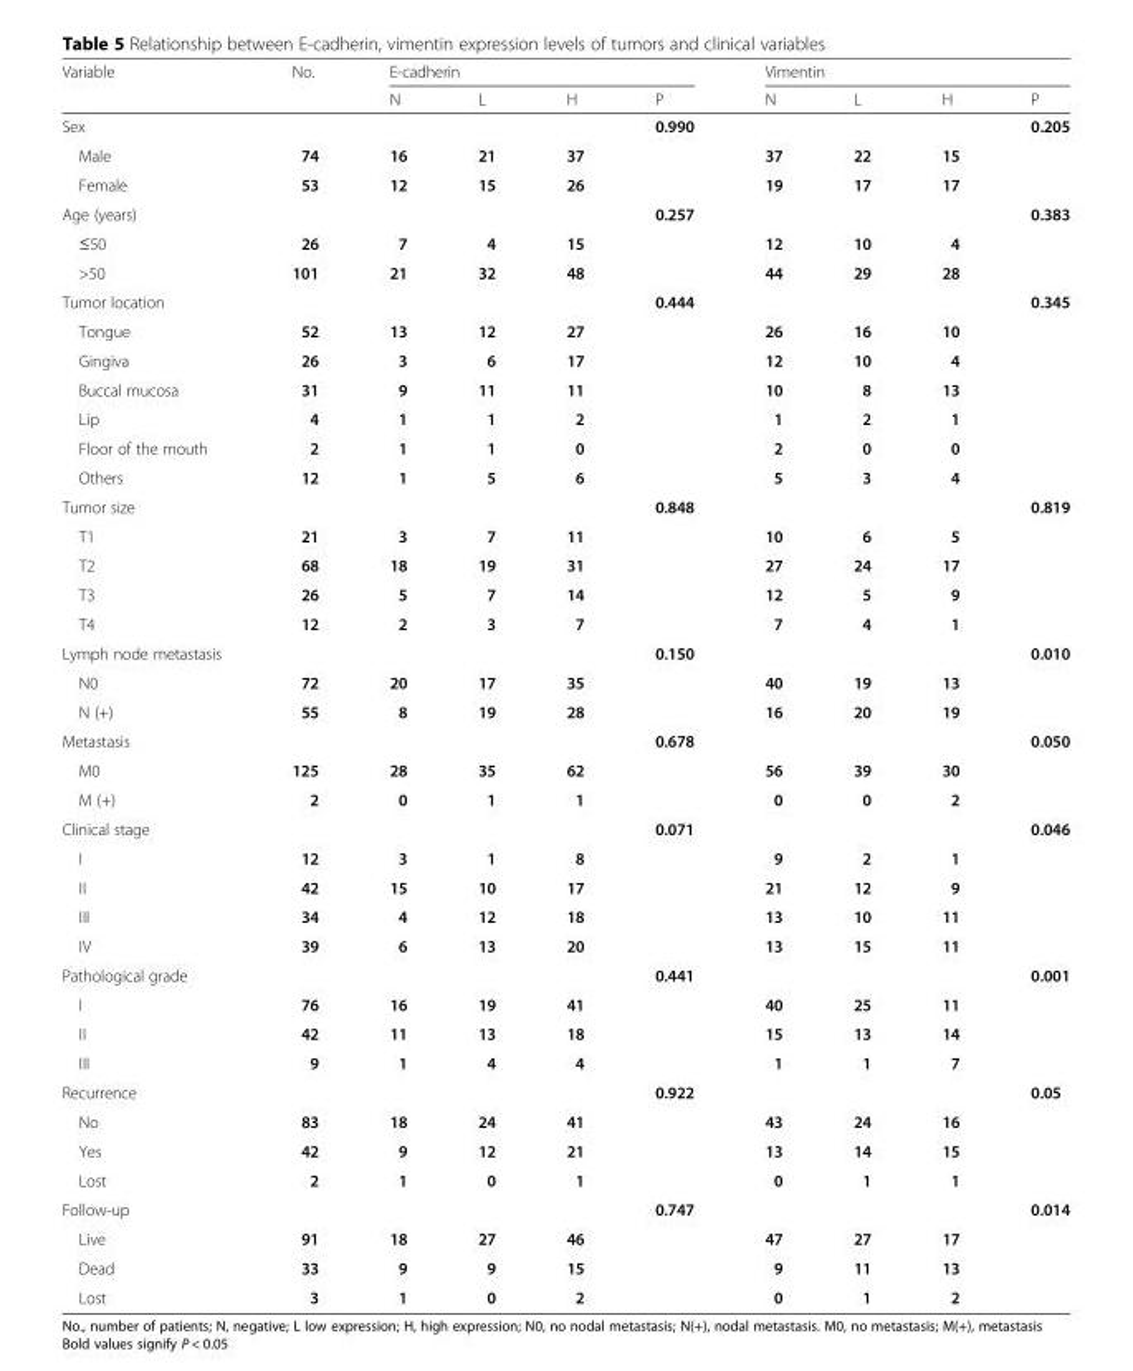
<table><thead><tr><td rowspan="2">Variable</td><td rowspan="2">No.</td><td colspan="4">E-cadherin</td><td colspan="4">Vimentin</td></tr><tr><td>N</td><td>L</td><td>H</td><td>P</td><td>N</td><td>L</td><td>H</td><td>P</td></tr></thead><tbody><tr><td>Sex</td><td></td><td></td><td></td><td></td><td>0.990</td><td></td><td></td><td></td><td>0.205</td></tr><tr><td>Male</td><td>74</td><td>16</td><td>21</td><td>37</td><td></td><td>37</td><td>22</td><td>15</td><td></td></tr><tr><td>Female</td><td>53</td><td>12</td><td>15</td><td>26</td><td></td><td>19</td><td>17</td><td>17</td><td></td></tr><tr><td>Age (years)</td><td></td><td></td><td></td><td></td><td>0.257</td><td></td><td></td><td></td><td>0.383</td></tr><tr><td>≤50</td><td>26</td><td>7</td><td>4</td><td>15</td><td></td><td>12</td><td>10</td><td>4</td><td></td></tr><tr><td>&gt;50</td><td>101</td><td>21</td><td>32</td><td>48</td><td></td><td>44</td><td>29</td><td>28</td><td></td></tr><tr><td>Tumor location</td><td></td><td></td><td></td><td></td><td>0.444</td><td></td><td></td><td></td><td>0.345</td></tr><tr><td>Tongue</td><td>52</td><td>13</td><td>12</td><td>27</td><td></td><td>26</td><td>16</td><td>10</td><td></td></tr><tr><td>Gingiva</td><td>26</td><td>3</td><td>6</td><td>17</td><td></td><td>12</td><td>10</td><td>4</td><td></td></tr><tr><td>Buccal mucosa</td><td>31</td><td>9</td><td>11</td><td>11</td><td></td><td>10</td><td>8</td><td>13</td><td></td></tr><tr><td>Lip</td><td>4</td><td>1</td><td>1</td><td>2</td><td></td><td>1</td><td>2</td><td>1</td><td></td></tr><tr><td>Floor of the mouth</td><td>2</td><td>1</td><td>1</td><td>0</td><td></td><td>2</td><td>0</td><td>0</td><td></td></tr><tr><td>Others</td><td>12</td><td>1</td><td>5</td><td>6</td><td></td><td>5</td><td>3</td><td>4</td><td></td></tr><tr><td>Tumor size</td><td></td><td></td><td></td><td></td><td>0.848</td><td></td><td></td><td></td><td>0.819</td></tr><tr><td>T1</td><td>21</td><td>3</td><td>7</td><td>11</td><td></td><td>10</td><td>6</td><td>5</td><td></td></tr><tr><td>T2</td><td>68</td><td>18</td><td>19</td><td>31</td><td></td><td>27</td><td>24</td><td>17</td><td></td></tr><tr><td>T3</td><td>26</td><td>5</td><td>7</td><td>14</td><td></td><td>12</td><td>5</td><td>9</td><td></td></tr><tr><td>T4</td><td>12</td><td>2</td><td>3</td><td>7</td><td></td><td>7</td><td>4</td><td>1</td><td></td></tr><tr><td>Lymph node metastasis</td><td></td><td></td><td></td><td></td><td>0.150</td><td></td><td></td><td></td><td>0.010</td></tr><tr><td>N0</td><td>72</td><td>20</td><td>17</td><td>35</td><td></td><td>40</td><td>19</td><td>13</td><td></td></tr><tr><td>N (+)</td><td>55</td><td>8</td><td>19</td><td>28</td><td></td><td>16</td><td>20</td><td>19</td><td></td></tr><tr><td>Metastasis</td><td></td><td></td><td></td><td></td><td>0.678</td><td></td><td></td><td></td><td>0.050</td></tr><tr><td>M0</td><td>125</td><td>28</td><td>35</td><td>62</td><td></td><td>56</td><td>39</td><td>30</td><td></td></tr><tr><td>M (+)</td><td>2</td><td>0</td><td>1</td><td>1</td><td></td><td>0</td><td>0</td><td>2</td><td></td></tr><tr><td>Clinical stage</td><td></td><td></td><td></td><td></td><td>0.071</td><td></td><td></td><td></td><td>0.046</td></tr><tr><td>I</td><td>12</td><td>3</td><td>1</td><td>8</td><td></td><td>9</td><td>2</td><td>1</td><td></td></tr><tr><td>II</td><td>42</td><td>15</td><td>10</td><td>17</td><td></td><td>21</td><td>12</td><td>9</td><td></td></tr><tr><td>III</td><td>34</td><td>4</td><td>12</td><td>18</td><td></td><td>13</td><td>10</td><td>11</td><td></td></tr><tr><td>IV</td><td>39</td><td>6</td><td>13</td><td>20</td><td></td><td>13</td><td>15</td><td>11</td><td></td></tr><tr><td>Pathological grade</td><td></td><td></td><td></td><td></td><td>0.441</td><td></td><td></td><td></td><td>0.001</td></tr><tr><td>I</td><td>76</td><td>16</td><td>19</td><td>41</td><td></td><td>40</td><td>25</td><td>11</td><td></td></tr><tr><td>II</td><td>42</td><td>11</td><td>13</td><td>18</td><td></td><td>15</td><td>13</td><td>14</td><td></td></tr><tr><td>III</td><td>9</td><td>1</td><td>4</td><td>4</td><td></td><td>1</td><td>1</td><td>7</td><td></td></tr><tr><td>Recurrence</td><td></td><td></td><td></td><td></td><td>0.922</td><td></td><td></td><td></td><td>0.05</td></tr><tr><td>No</td><td>83</td><td>18</td><td>24</td><td>41</td><td></td><td>43</td><td>24</td><td>16</td><td></td></tr><tr><td>Yes</td><td>42</td><td>9</td><td>12</td><td>21</td><td></td><td>13</td><td>14</td><td>15</td><td></td></tr><tr><td>Lost</td><td>2</td><td>1</td><td>0</td><td>1</td><td></td><td>0</td><td>1</td><td>1</td><td></td></tr><tr><td>Follow-up</td><td></td><td></td><td></td><td></td><td>0.747</td><td></td><td></td><td></td><td>0.014</td></tr><tr><td>Live</td><td>91</td><td>18</td><td>27</td><td>46</td><td></td><td>47</td><td>27</td><td>17</td><td></td></tr><tr><td>Dead</td><td>33</td><td>9</td><td>9</td><td>15</td><td></td><td>9</td><td>11</td><td>13</td><td></td></tr><tr><td>Lost</td><td>3</td><td>1</td><td>0</td><td>2</td><td></td><td>0</td><td>1</td><td>2</td><td></td></tr></tbody></table>